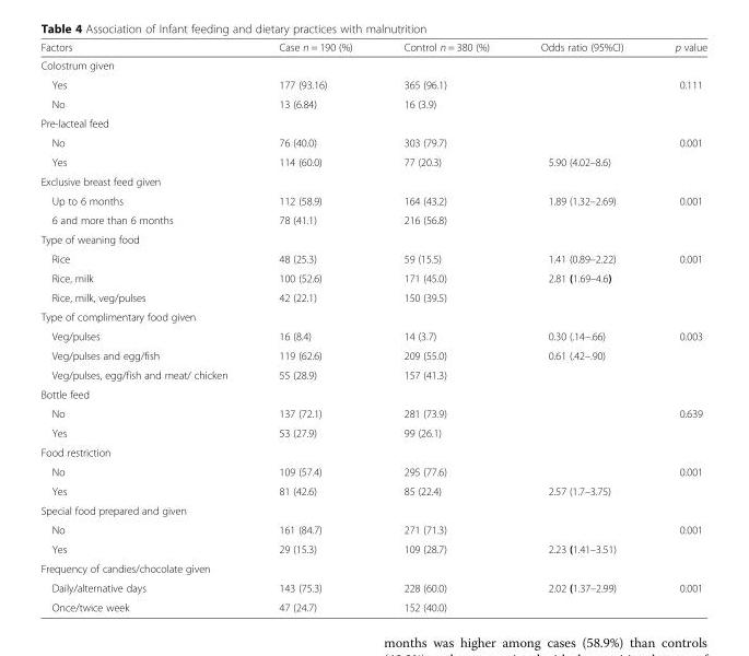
<table><thead><tr><td>Factors</td><td>Case n = 190 (%)</td><td>Control n = 380 (%)</td><td>Odds ratio (95%CI)</td><td>p value</td></tr></thead><tbody><tr><td colspan="5">Colostrum given</td></tr><tr><td>Yes</td><td>177 (93.16)</td><td>365 (96.1)</td><td></td><td rowspan="2">0.111</td></tr><tr><td>No</td><td>13 (6.84)</td><td>16 (3.9)</td><td></td></tr><tr><td colspan="5">Pre-lacteal feed</td></tr><tr><td>No</td><td>76 (40.0)</td><td>303 (79.7)</td><td></td><td rowspan="2">0.001</td></tr><tr><td>Yes</td><td>114 (60.0)</td><td>77 (20.3)</td><td>5.90 (4.02–8.6)</td></tr><tr><td colspan="5">Exclusive breast feed given</td></tr><tr><td>Up to 6 months</td><td>112 (58.9)</td><td>164 (43.2)</td><td>1.89 (1.32–2.69)</td><td rowspan="2">0.001</td></tr><tr><td>6 and more than 6 months</td><td>78 (41.1)</td><td>216 (56.8)</td><td></td></tr><tr><td colspan="5">Type of weaning food</td></tr><tr><td>Rice</td><td>48 (25.3)</td><td>59 (15.5)</td><td>1.41 (0.89–2.22)</td><td rowspan="3">0.001</td></tr><tr><td>Rice, milk</td><td>100 (52.6)</td><td>171 (45.0)</td><td>2.81 (1.69–4.6)</td></tr><tr><td>Rice, milk, veg/pulses</td><td>42 (22.1)</td><td>150 (39.5)</td><td></td></tr><tr><td colspan="5">Type of complimentary food given</td></tr><tr><td>Veg/pulses</td><td>16 (8.4)</td><td>14 (3.7)</td><td>0.30 (.14–.66)</td><td rowspan="3">0.003</td></tr><tr><td>Veg/pulses and egg/fish</td><td>119 (62.6)</td><td>209 (55.0)</td><td>0.61 (.42–.90)</td></tr><tr><td>Veg/pulses, egg/fish and meat/ chicken</td><td>55 (28.9)</td><td>157 (41.3)</td><td></td></tr><tr><td colspan="5">Bottle feed</td></tr><tr><td>No</td><td>137 (72.1)</td><td>281 (73.9)</td><td></td><td>0.639</td></tr><tr><td>Yes</td><td>53 (27.9)</td><td>99 (26.1)</td><td></td><td></td></tr><tr><td colspan="5">Food restriction</td></tr><tr><td>No</td><td>109 (57.4)</td><td>295 (77.6)</td><td></td><td rowspan="2">0.001</td></tr><tr><td>Yes</td><td>81 (42.6)</td><td>85 (22.4)</td><td>2.57 (1.7–3.75)</td></tr><tr><td colspan="5">Special food prepared and given</td></tr><tr><td>No</td><td>161 (84.7)</td><td>271 (71.3)</td><td></td><td rowspan="2">0.001</td></tr><tr><td>Yes</td><td>29 (15.3)</td><td>109 (28.7)</td><td>2.23 (1.41–3.51)</td></tr><tr><td colspan="5">Frequency of candies/chocolate given</td></tr><tr><td>Daily/alternative days</td><td>143 (75.3)</td><td>228 (60.0)</td><td>2.02 (1.37–2.99)</td><td>0.001</td></tr><tr><td>Once/twice week</td><td>47 (24.7)</td><td>152 (40.0)</td><td></td><td></td></tr></tbody></table>